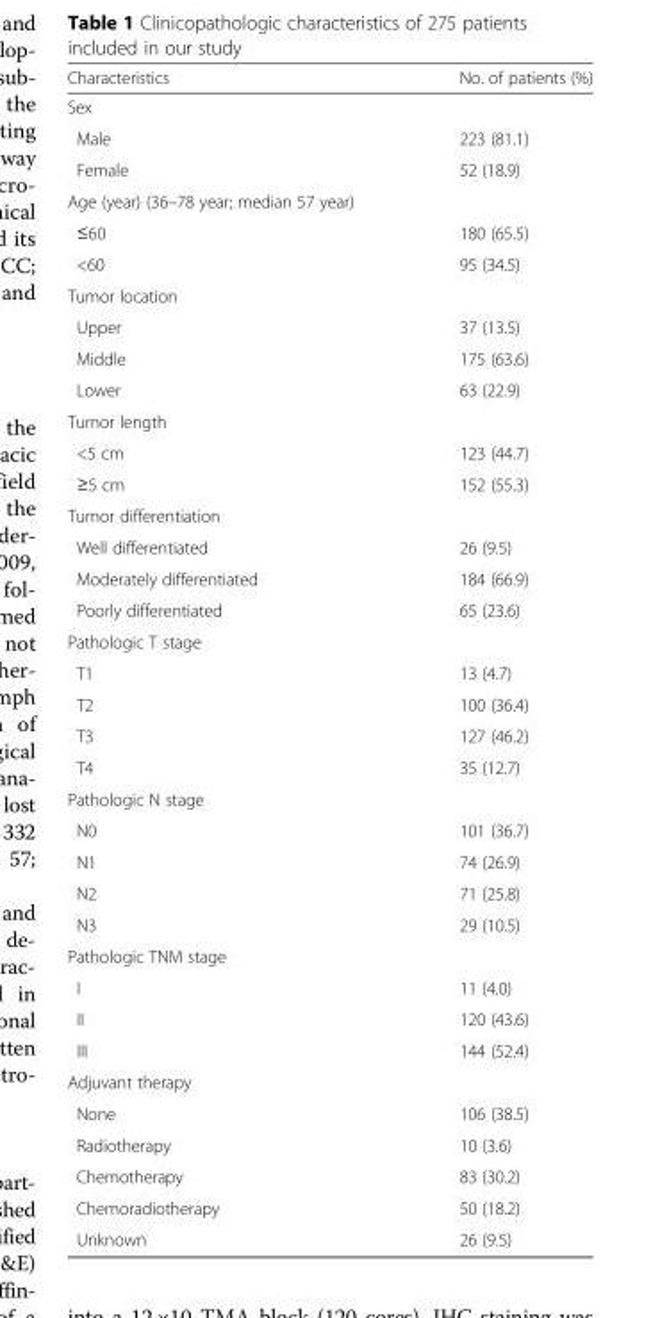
<table><thead><tr><td>Characteristics</td><td>No. of patients (%)</td></tr></thead><tbody><tr><td colspan="2">Sex</td></tr><tr><td>Male</td><td>223 (81.1)</td></tr><tr><td>Female</td><td>52 (18.9)</td></tr><tr><td colspan="2">Age (year) (36–78 year; median 57 year)</td></tr><tr><td>≤60</td><td>180 (65.5)</td></tr><tr><td>&lt;60</td><td>95 (34.5)</td></tr><tr><td colspan="2">Tumor location</td></tr><tr><td>Upper</td><td>37 (13.5)</td></tr><tr><td>Middle</td><td>175 (63.6)</td></tr><tr><td>Lower</td><td>63 (22.9)</td></tr><tr><td colspan="2">Tumor length</td></tr><tr><td>&lt;5 cm</td><td>123 (44.7)</td></tr><tr><td>≥5 cm</td><td>152 (55.3)</td></tr><tr><td colspan="2">Tumor differentiation</td></tr><tr><td>Well differentiated</td><td>26 (9.5)</td></tr><tr><td>Moderately differentiated</td><td>184 (66.9)</td></tr><tr><td>Poorly differentiated</td><td>65 (23.6)</td></tr><tr><td colspan="2">Pathologic T stage</td></tr><tr><td>T1</td><td>13 (4.7)</td></tr><tr><td>T2</td><td>100 (36.4)</td></tr><tr><td>T3</td><td>127 (46.2)</td></tr><tr><td>T4</td><td>35 (12.7)</td></tr><tr><td colspan="2">Pathologic N stage</td></tr><tr><td>N0</td><td>101 (36.7)</td></tr><tr><td>N1</td><td>74 (26.9)</td></tr><tr><td>N2</td><td>71 (25.8)</td></tr><tr><td>N3</td><td>29 (10.5)</td></tr><tr><td colspan="2">Pathologic TNM stage</td></tr><tr><td>I</td><td>11 (4.0)</td></tr><tr><td>II</td><td>120 (43.6)</td></tr><tr><td>III</td><td>144 (52.4)</td></tr><tr><td colspan="2">Adjuvant therapy</td></tr><tr><td>None</td><td>106 (38.5)</td></tr><tr><td>Radiotherapy</td><td>10 (3.6)</td></tr><tr><td>Chemotherapy</td><td>83 (30.2)</td></tr><tr><td>Chemoradiotherapy</td><td>50 (18.2)</td></tr><tr><td>Unknown</td><td>26 (9.5)</td></tr></tbody></table>